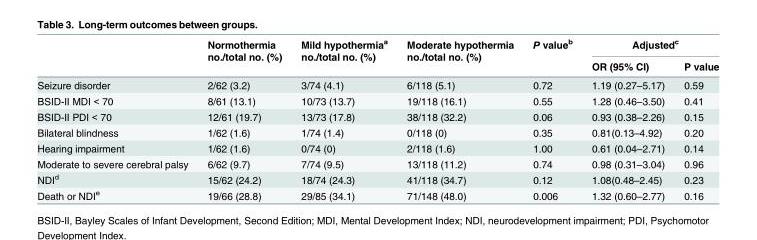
<table><thead><tr><td rowspan="2"></td><td rowspan="2">Normothermia no./total no. (%)</td><td rowspan="2">Mild hypothermia<sup>a</sup> no./total no. (%)</td><td rowspan="2">Moderate hypothermia no./total no. (%)</td><td rowspan="2">P value<sup>b</sup></td><td colspan="2">Adjusted<sup>c</sup></td></tr><tr><td>OR (95% CI)</td><td>P value</td></tr></thead><tbody><tr><td>Seizure disorder</td><td>2/62 (3.2)</td><td>3/74 (4.1)</td><td>6/118 (5.1)</td><td>0.72</td><td>1.19 (0.27–5.17)</td><td>0.59</td></tr><tr><td>BSID-II MDI &lt; 70</td><td>8/61 (13.1)</td><td>10/73 (13.7)</td><td>19/118 (16.1)</td><td>0.55</td><td>1.28 (0.46–3.50)</td><td>0.41</td></tr><tr><td>BSID-II PDI &lt; 70</td><td>12/61 (19.7)</td><td>13/73 (17.8)</td><td>38/118 (32.2)</td><td>0.06</td><td>0.93 (0.38–2.26)</td><td>0.15</td></tr><tr><td>Bilateral blindness</td><td>1/62 (1.6)</td><td>1/74 (1.4)</td><td>0/118 (0)</td><td>0.35</td><td>0.81(0.13–4.92)</td><td>0.20</td></tr><tr><td>Hearing impairment</td><td>1/62 (1.6)</td><td>0/74 (0)</td><td>2/118 (1.6)</td><td>1.00</td><td>0.61 (0.04–2.71)</td><td>0.14</td></tr><tr><td>Moderate to severe cerebral palsy</td><td>6/62 (9.7)</td><td>7/74 (9.5)</td><td>13/118 (11.2)</td><td>0.74</td><td>0.98 (0.31–3.04)</td><td>0.96</td></tr><tr><td>NDI<sup>d</sup></td><td>15/62 (24.2)</td><td>18/74 (24.3)</td><td>41/118 (34.7)</td><td>0.12</td><td>1.08(0.48–2.45)</td><td>0.23</td></tr><tr><td>Death or NDI<sup>e</sup></td><td>19/66 (28.8)</td><td>29/85 (34.1)</td><td>71/148 (48.0)</td><td>0.006</td><td>1.32 (0.60–2.77)</td><td>0.16</td></tr></tbody></table>